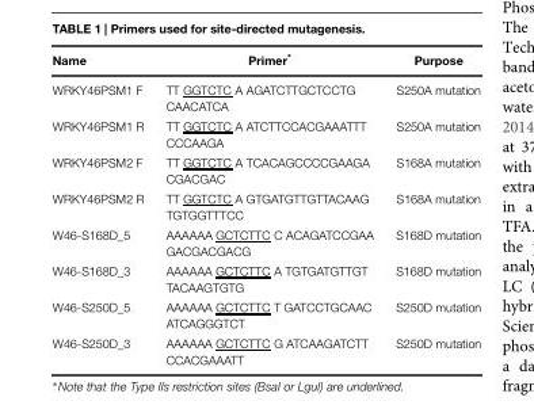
<table><thead><tr><td>Name</td><td>Primer*</td><td>Purpose</td></tr></thead><tbody><tr><td>WRKY46PSM1 F</td><td>TT GGTCTC A AGATCTTGCTCCTG CAACATCA</td><td>S250A mutation</td></tr><tr><td>WRKY46PSM1 R</td><td>TT GGTCTC A ATCTTCCACGAAATTT CCCAAGA</td><td>S250A mutation</td></tr><tr><td>WRKY46PSM2 F</td><td>TT GGTCTC A TCACAGCCCCGAAGA CGACGAC</td><td>S168A mutation</td></tr><tr><td>WRKY46PSM2 R</td><td>TT GGTCTC A GTGATGTTGTTACAAG TGTGGTTTCC</td><td>S168A mutation</td></tr><tr><td>W46-S168D_5</td><td>AAAAAA GCTCTTC C ACAGATCCGAA GACGACGACG</td><td>S168D mutation</td></tr><tr><td>W46-S168D_3</td><td>AAAAAA GCTCTTC A TGTGATGTTGT TACAAGTGTG</td><td>S168D mutation</td></tr><tr><td>W46-S250D_5</td><td>AAAAAA GCTCTTC T GATCCTGCAAC ATCAGGGTCT</td><td>S250D mutation</td></tr><tr><td>W46-S250D_3</td><td>AAAAAA GCTCTTC G ATCAAGATCTT CCACGAAATT</td><td>S250D mutation</td></tr></tbody></table>